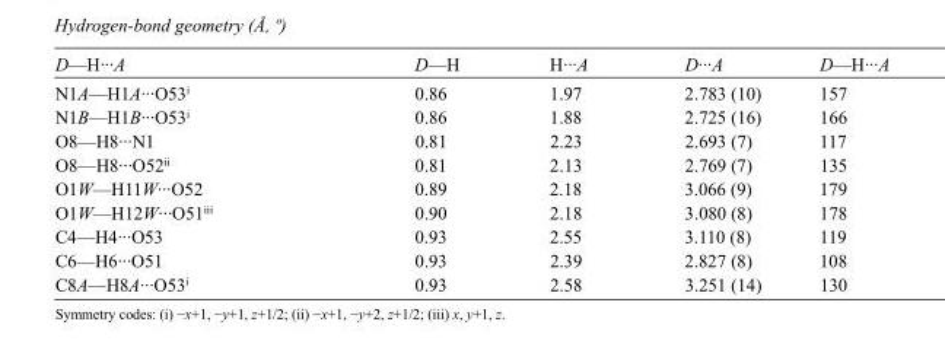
<table><tbody><tr><td>D—H···A</td><td>D—H</td><td>H···A</td><td>D···A</td><td>D—H···A</td></tr><tr><td>N1A—H1A···O53<sup>i</sup></td><td>0.86</td><td>1.97</td><td>2.783 (10)</td><td>157</td></tr><tr><td>N1B—H1B···O53<sup>i</sup></td><td>0.86</td><td>1.88</td><td>2.725 (16)</td><td>166</td></tr><tr><td>O8—H8···N1</td><td>0.81</td><td>2.23</td><td>2.693 (7)</td><td>117</td></tr><tr><td>O8—H8···O52<sup>ii</sup></td><td>0.81</td><td>2.13</td><td>2.769 (7)</td><td>135</td></tr><tr><td>O1W—H11W···O52</td><td>0.89</td><td>2.18</td><td>3.066 (9)</td><td>179</td></tr><tr><td>O1W—H12W···O51<sup>iii</sup></td><td>0.90</td><td>2.18</td><td>3.080 (8)</td><td>178</td></tr><tr><td>C4—H4···O53</td><td>0.93</td><td>2.55</td><td>3.110 (8)</td><td>119</td></tr><tr><td>C6—H6···O51</td><td>0.93</td><td>2.39</td><td>2.827 (8)</td><td>108</td></tr><tr><td>C8A—H8A···O53<sup>i</sup></td><td>0.93</td><td>2.58</td><td>3.251 (14)</td><td>130</td></tr></tbody></table>